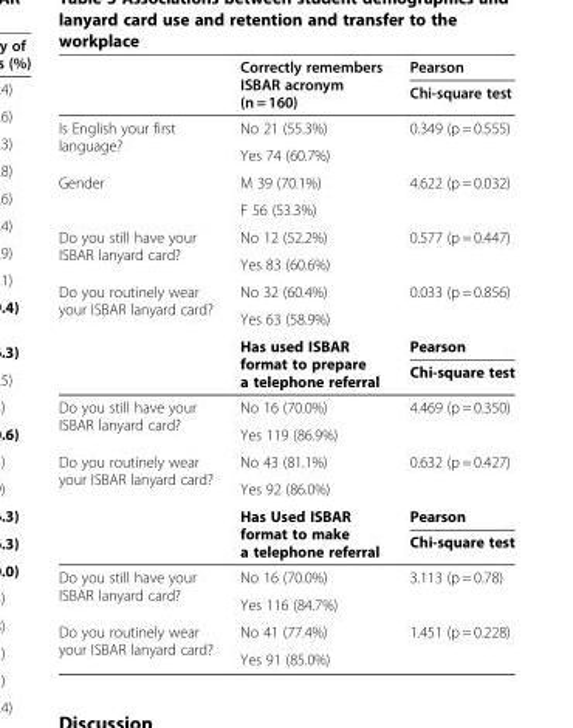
<table><thead><tr><td rowspan="2"></td><td rowspan="2">Correctly remembers ISBAR acronym (n = 160)</td><td rowspan="2">Pearson Chi-square test</td></tr><tr></tr></thead><tbody><tr><td rowspan="2">Is English your first language?</td><td>No 21 (55.3%)</td><td rowspan="2">0.349 (p = 0.555)</td></tr><tr><td>Yes 74 (60.7%)</td></tr><tr><td rowspan="2">Gender</td><td>M 39 (70.1%)</td><td rowspan="2">4.622 (p = 0.032)</td></tr><tr><td>F 56 (53.3%)</td></tr><tr><td rowspan="2">Do you still have your ISBAR lanyard card?</td><td>No 12 (52.2%)</td><td rowspan="2">0.577 (p = 0.447)</td></tr><tr><td>Yes 83 (60.6%)</td></tr><tr><td rowspan="4">Do you routinely wear your ISBAR lanyard card?</td><td>No 32 (60.4%)</td><td rowspan="2">0.033 (p = 0.856)</td></tr><tr><td>Yes 63 (58.9%)</td></tr><tr><td rowspan="2">Has used ISBAR format to prepare a telephone referral</td><td>Pearson</td></tr><tr><td>Chi-square test</td></tr><tr><td rowspan="2">Do you still have your ISBAR lanyard card?</td><td>No 16 (70.0%)</td><td rowspan="2">4.469 (p = 0.350)</td></tr><tr><td>Yes 119 (86.9%)</td></tr><tr><td rowspan="4">Do you routinely wear your ISBAR lanyard card?</td><td>No 43 (81.1%)</td><td rowspan="2">0.632 (p = 0.427)</td></tr><tr><td>Yes 92 (86.0%)</td></tr><tr><td rowspan="2">Has Used ISBAR format to make a telephone referral</td><td>Pearson</td></tr><tr><td>Chi-square test</td></tr><tr><td rowspan="2">Do you still have your ISBAR lanyard card?</td><td>No 16 (70.0%)</td><td rowspan="2">3.113 (p = 0.78)</td></tr><tr><td>Yes 116 (84.7%)</td></tr><tr><td rowspan="2">Do you routinely wear your ISBAR lanyard card?</td><td>No 41 (77.4%)</td><td rowspan="2">1.451 (p = 0.228)</td></tr><tr><td>Yes 91 (85.0%)</td></tr></tbody></table>